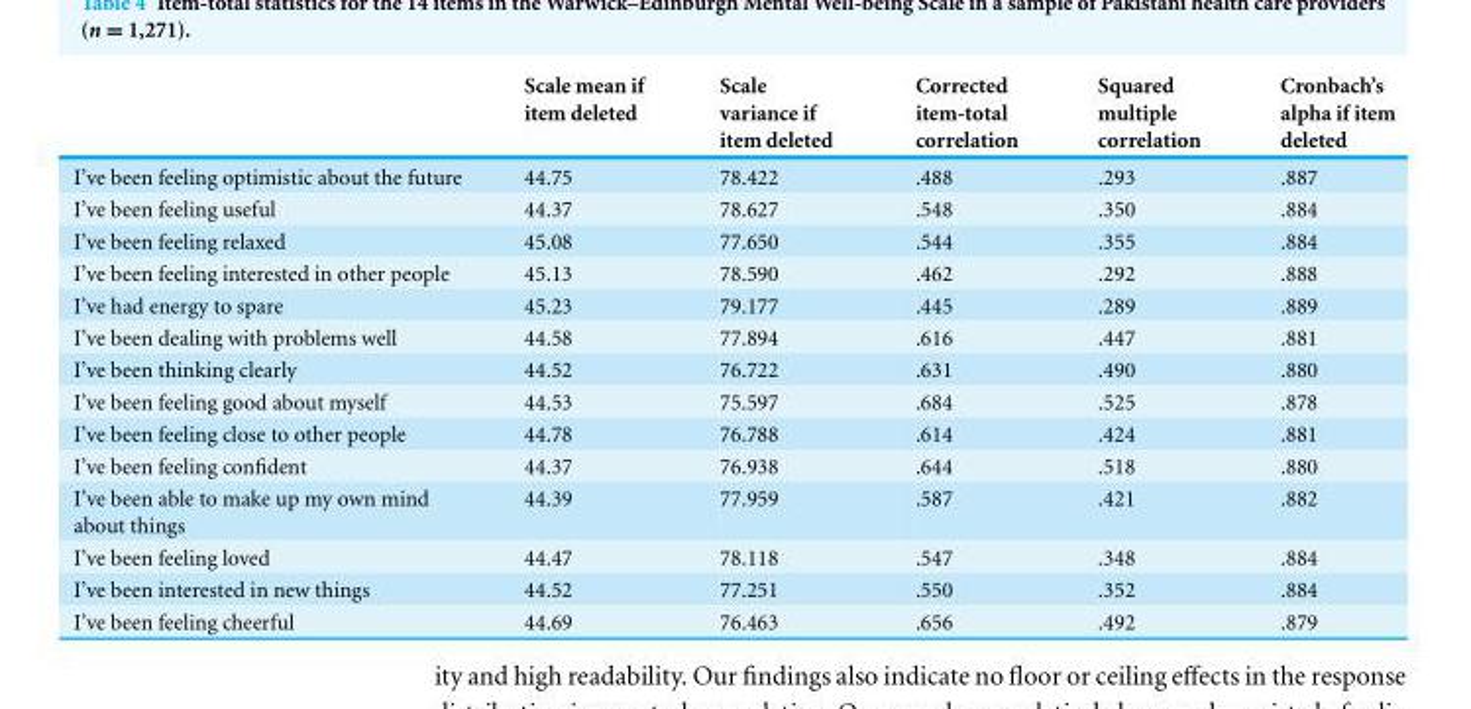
<table><thead><tr><td></td><td>Scale mean if item deleted</td><td>Scale variance if item deleted</td><td>Corrected item-total correlation</td><td>Squared multiple correlation</td><td>Cronbach’s alpha if item deleted</td></tr></thead><tbody><tr><td>I’ve been feeling optimistic about the future</td><td>44.75</td><td>78.422</td><td>.488</td><td>.293</td><td>.887</td></tr><tr><td>I’ve been feeling useful</td><td>44.37</td><td>78.627</td><td>.548</td><td>.350</td><td>.884</td></tr><tr><td>I’ve been feeling relaxed</td><td>45.08</td><td>77.650</td><td>.544</td><td>.355</td><td>.884</td></tr><tr><td>I’ve been feeling interested in other people</td><td>45.13</td><td>78.590</td><td>.462</td><td>.292</td><td>.888</td></tr><tr><td>I’ve had energy to spare</td><td>45.23</td><td>79.177</td><td>.445</td><td>.289</td><td>.889</td></tr><tr><td>I’ve been dealing with problems well</td><td>44.58</td><td>77.894</td><td>.616</td><td>.447</td><td>.881</td></tr><tr><td>I’ve been thinking clearly</td><td>44.52</td><td>76.722</td><td>.631</td><td>.490</td><td>.880</td></tr><tr><td>I’ve been feeling good about myself</td><td>44.53</td><td>75.597</td><td>.684</td><td>.525</td><td>.878</td></tr><tr><td>I’ve been feeling close to other people</td><td>44.78</td><td>76.788</td><td>.614</td><td>.424</td><td>.881</td></tr><tr><td>I’ve been feeling confident</td><td>44.37</td><td>76.938</td><td>.644</td><td>.518</td><td>.880</td></tr><tr><td>I’ve been able to make up my own mind about things</td><td>44.39</td><td>77.959</td><td>.587</td><td>.421</td><td>.882</td></tr><tr><td>I’ve been feeling loved</td><td>44.47</td><td>78.118</td><td>.547</td><td>.348</td><td>.884</td></tr><tr><td>I’ve been interested in new things</td><td>44.52</td><td>77.251</td><td>.550</td><td>.352</td><td>.884</td></tr><tr><td>I’ve been feeling cheerful</td><td>44.69</td><td>76.463</td><td>.656</td><td>.492</td><td>.879</td></tr></tbody></table>